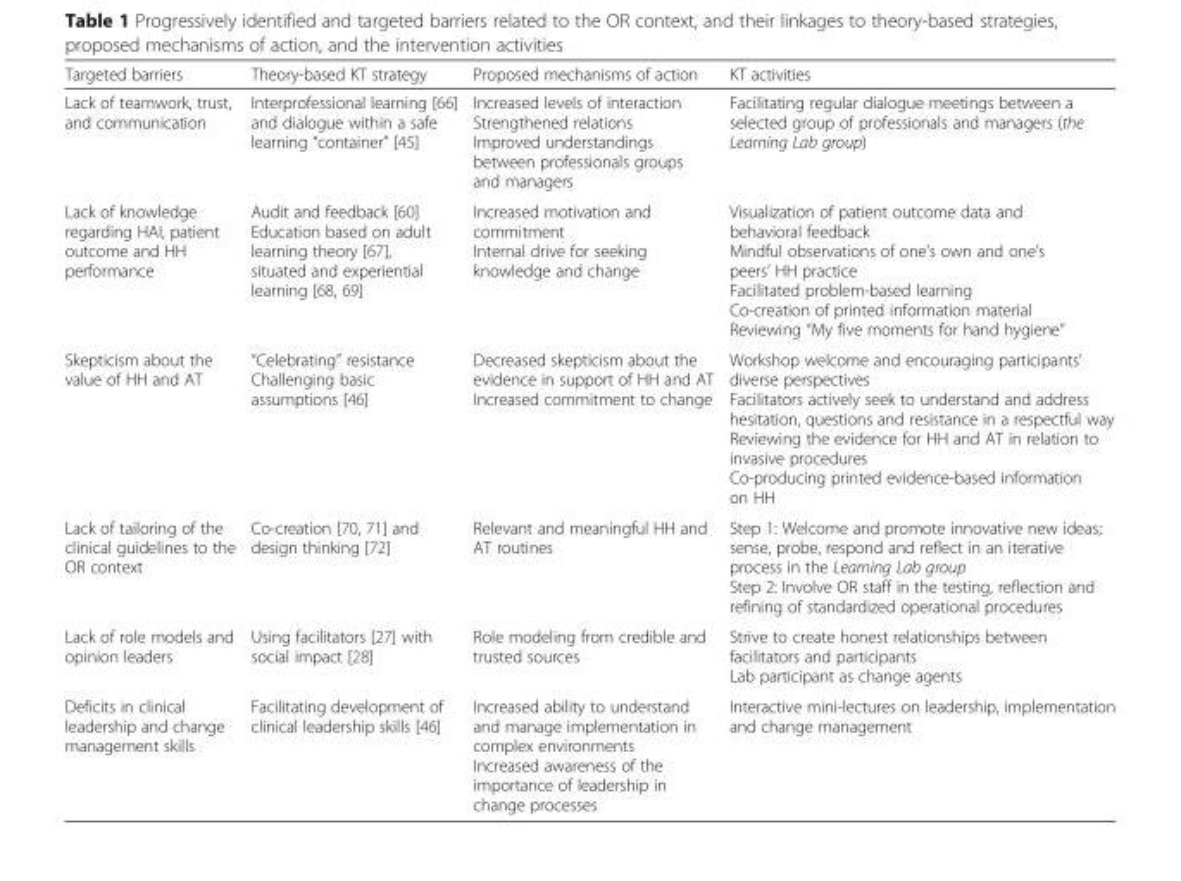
<table><thead><tr><td>Targeted barriers</td><td>Theory-based KT strategy</td><td>Proposed mechanisms of action</td><td>KT activities</td></tr></thead><tbody><tr><td>Lack of teamwork, trust, and communication</td><td>Interprofessional learning [66] and dialogue within a safe learning “container” [45]</td><td>Increased levels of interaction Strengthened relations Improved understandings between professionals groups and managers</td><td>Facilitating regular dialogue meetings between a selected group of professionals and managers (the Learning Lab group)</td></tr><tr><td>Lack of knowledge regarding HAI, patient outcome and HH performance</td><td>Audit and feedback [60] Education based on adult learning theory [67], situated and experiential learning [68, 69]</td><td>Increased motivation and commitment Internal drive for seeking knowledge and change</td><td>Visualization of patient outcome data and behavioral feedback Mindful observations of one’s own and one’s peers’ HH practice Facilitated problem-based learning Co-creation of printed information material Reviewing “My five moments for hand hygiene”</td></tr><tr><td>Skepticism about the value of HH and AT</td><td>“Celebrating” resistance Challenging basic assumptions [46]</td><td>Decreased skepticism about the evidence in support of HH and AT Increased commitment to change</td><td>Workshop welcome and encouraging participants’ diverse perspectives Facilitators actively seek to understand and address hesitation, questions and resistance in a respectful way Reviewing the evidence for HH and AT in relation to invasive procedures Co-producing printed evidence-based information on HH</td></tr><tr><td>Lack of tailoring of the clinical guidelines to the OR context</td><td>Co-creation [70, 71] and design thinking [72]</td><td>Relevant and meaningful HH and AT routines</td><td>Step 1: Welcome and promote innovative new ideas; sense, probe, respond and reflect in an iterative process in the Learning Lab group Step 2: Involve OR staff in the testing, reflection and refining of standardized operational procedures</td></tr><tr><td>Lack of role models and opinion leaders</td><td>Using facilitators [27] with social impact [28]</td><td>Role modeling from credible and trusted sources</td><td>Strive to create honest relationships between facilitators and participants Lab participant as change agents</td></tr><tr><td>Deficits in clinical leadership and change management skills</td><td>Facilitating development of clinical leadership skills [46]</td><td>Increased ability to understand and manage implementation in complex environments Increased awareness of the importance of leadership in change processes</td><td>Interactive mini-lectures on leadership, implementation and change management</td></tr></tbody></table>